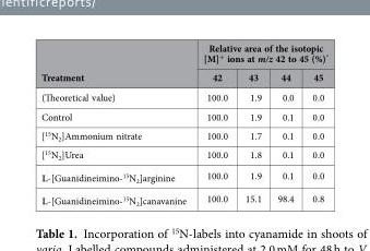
<table><thead><tr><td rowspan="2">Treatment</td><td colspan="4">Relative area of the isotopic [M]<sup>+</sup> ions at m/z 42 to 45 (%)*</td></tr><tr><td>42</td><td>43</td><td>44</td><td>45</td></tr></thead><tbody><tr><td>(Theoretical value)</td><td>100.0</td><td>1.9</td><td>0.0</td><td>0.0</td></tr><tr><td>Control</td><td>100.0</td><td>1.9</td><td>0.1</td><td>0.0</td></tr><tr><td>[<sup>15</sup>N<sub>2</sub>]Ammonium nitrate</td><td>100.0</td><td>1.7</td><td>0.1</td><td>0.0</td></tr><tr><td>[<sup>15</sup>N<sub>2</sub>]Urea</td><td>100.0</td><td>1.8</td><td>0.1</td><td>0.0</td></tr><tr><td>L-[Guanidineimino-<sup>15</sup>N<sub>2</sub>]arginine</td><td>100.0</td><td>1.9</td><td>0.1</td><td>0.0</td></tr><tr><td>L-[Guanidineimino-<sup>15</sup>N<sub>2</sub>]canavanine</td><td>100.0</td><td>15.1</td><td>98.4</td><td>0.8</td></tr></tbody></table>